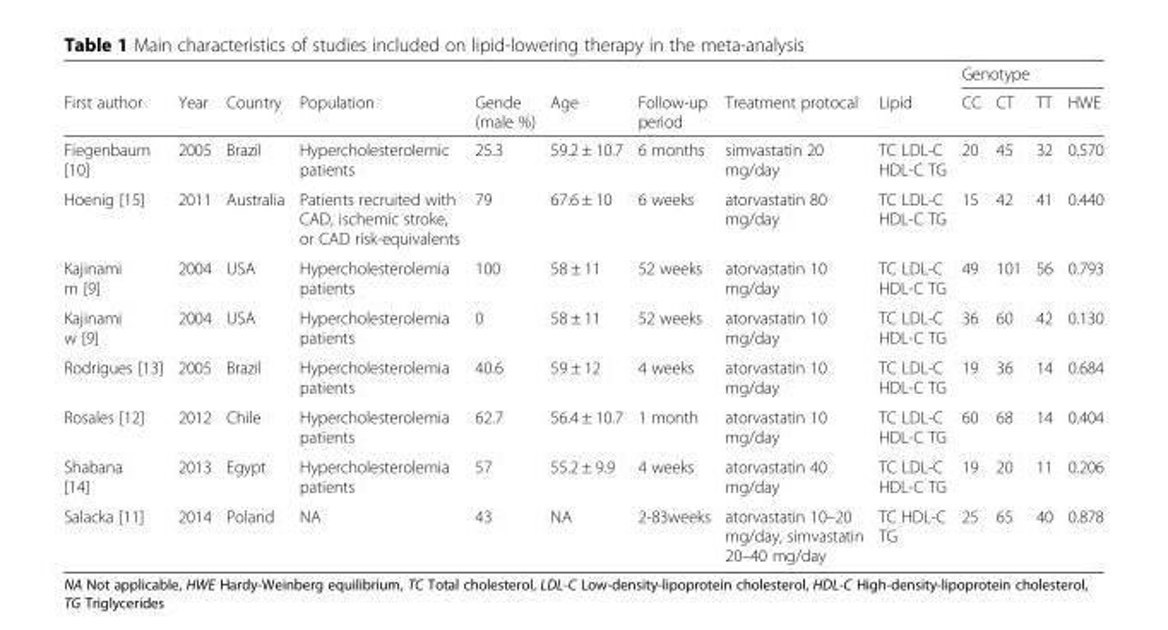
<table><thead><tr><td rowspan="2">First author</td><td rowspan="2">Year</td><td rowspan="2">Country</td><td rowspan="2">Population</td><td rowspan="2">Gende (male %)</td><td rowspan="2">Age</td><td rowspan="2">Follow-up period</td><td rowspan="2">Treatment protocal</td><td rowspan="2">Lipid</td><td colspan="4">Genotype</td></tr><tr><td>CC</td><td>CT</td><td>TT</td><td>HWE</td></tr></thead><tbody><tr><td>Fiegenbaum [10]</td><td>2005</td><td>Brazil</td><td>Hypercholesterolemic patients</td><td>25.3</td><td>59.2 ± 10.7</td><td>6 months</td><td>simvastatin 20 mg/day</td><td>TC LDL-C HDL-C TG</td><td>20</td><td>45</td><td>32</td><td>0.570</td></tr><tr><td>Hoenig [15]</td><td>2011</td><td>Australia</td><td>Patients recruited with CAD, ischemic stroke, or CAD risk-equivalents</td><td>79</td><td>67.6 ± 10</td><td>6 weeks</td><td>atorvastatin 80 mg/day</td><td>TC LDL-C HDL-C TG</td><td>15</td><td>42</td><td>41</td><td>0.440</td></tr><tr><td>Kajinami m [9]</td><td>2004</td><td>USA</td><td>Hypercholesterolemia patients</td><td>100</td><td>58 ± 11</td><td>52 weeks</td><td>atorvastatin 10 mg/day</td><td>TC LDL-C HDL-C TG</td><td>49</td><td>101</td><td>56</td><td>0.793</td></tr><tr><td>Kajinami w [9]</td><td>2004</td><td>USA</td><td>Hypercholesterolemia patients</td><td>0</td><td>58 ± 11</td><td>52 weeks</td><td>atorvastatin 10 mg/day</td><td>TC LDL-C HDL-C TG</td><td>36</td><td>60</td><td>42</td><td>0.130</td></tr><tr><td>Rodrigues [13]</td><td>2005</td><td>Brazil</td><td>Hypercholesterolemia patients</td><td>40.6</td><td>59 ± 12</td><td>4 weeks</td><td>atorvastatin 10 mg/day</td><td>TC LDL-C HDL-C TG</td><td>19</td><td>36</td><td>14</td><td>0.684</td></tr><tr><td>Rosales [12]</td><td>2012</td><td>Chile</td><td>Hypercholesterolemia patients</td><td>62.7</td><td>56.4 ± 10.7</td><td>1 month</td><td>atorvastatin 10 mg/day</td><td>TC LDL-C HDL-C TG</td><td>60</td><td>68</td><td>14</td><td>0.404</td></tr><tr><td>Shabana [14]</td><td>2013</td><td>Egypt</td><td>Hypercholesterolemia patients</td><td>57</td><td>55.2 ± 9.9</td><td>4 weeks</td><td>atorvastatin 40 mg/day</td><td>TC LDL-C HDL-C TG</td><td>19</td><td>20</td><td>11</td><td>0.206</td></tr><tr><td>Salacka [11]</td><td>2014</td><td>Poland</td><td>NA</td><td>43</td><td>NA</td><td>2-83weeks</td><td>atorvastatin 10–20 mg/day, simvastatin 20–40 mg/day</td><td>TC HDL-C TG</td><td>25</td><td>65</td><td>40</td><td>0.878</td></tr></tbody></table>